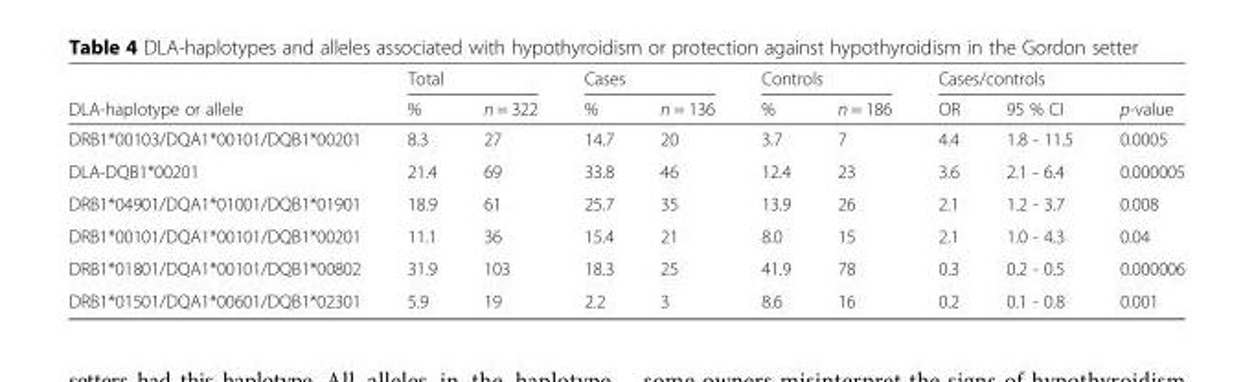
<table><thead><tr><td rowspan="2">DLA-haplotype or allele</td><td colspan="2">Total</td><td colspan="2">Cases</td><td colspan="2">Controls</td><td colspan="3">Cases/controls</td></tr><tr><td>%</td><td>n = 322</td><td>%</td><td>n = 136</td><td>%</td><td>n = 186</td><td>OR</td><td>95 % CI</td><td>p-value</td></tr></thead><tbody><tr><td>DRB1*00103/DQA1*00101/DQB1*00201</td><td>8.3</td><td>27</td><td>14.7</td><td>20</td><td>3.7</td><td>7</td><td>4.4</td><td>1.8 - 11.5</td><td>0.0005</td></tr><tr><td>DLA-DQB1*00201</td><td>21.4</td><td>69</td><td>33.8</td><td>46</td><td>12.4</td><td>23</td><td>3.6</td><td>2.1 - 6.4</td><td>0.000005</td></tr><tr><td>DRB1*04901/DQA1*01001/DQB1*01901</td><td>18.9</td><td>61</td><td>25.7</td><td>35</td><td>13.9</td><td>26</td><td>2.1</td><td>1.2 - 3.7</td><td>0.008</td></tr><tr><td>DRB1*00101/DQA1*00101/DQB1*00201</td><td>11.1</td><td>36</td><td>15.4</td><td>21</td><td>8.0</td><td>15</td><td>2.1</td><td>1.0 - 4.3</td><td>0.04</td></tr><tr><td>DRB1*01801/DQA1*00101/DQB1*00802</td><td>31.9</td><td>103</td><td>18.3</td><td>25</td><td>41.9</td><td>78</td><td>0.3</td><td>0.2 - 0.5</td><td>0.000006</td></tr><tr><td>DRB1*01501/DQA1*00601/DQB1*02301</td><td>5.9</td><td>19</td><td>2.2</td><td>3</td><td>8.6</td><td>16</td><td>0.2</td><td>0.1 - 0.8</td><td>0.001</td></tr></tbody></table>